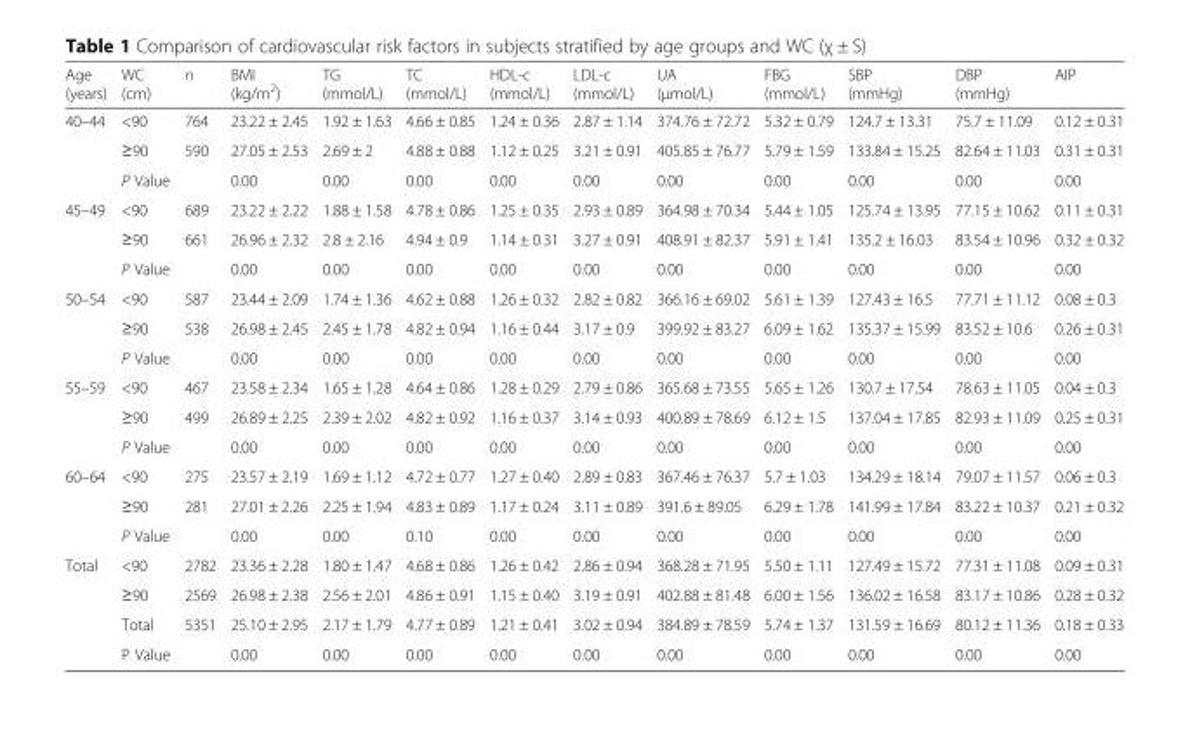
<table><thead><tr><td>Age (years)</td><td>WC (cm)</td><td>n</td><td>BMI (kg/m<sup>2</sup>)</td><td>TG (mmol/L)</td><td>TC (mmol/L)</td><td>HDL-c (mmol/L)</td><td>LDL-c (mmol/L)</td><td>UA (μmol/L)</td><td>FBG (mmol/L)</td><td>SBP (mmHg)</td><td>DBP (mmHg)</td><td>AIP</td></tr></thead><tbody><tr><td rowspan="3">40–44</td><td>&lt;90</td><td>764</td><td>23.22 ± 2.45</td><td>1.92 ± 1.63</td><td>4.66 ± 0.85</td><td>1.24 ± 0.36</td><td>2.87 ± 1.14</td><td>374.76 ± 72.72</td><td>5.32 ± 0.79</td><td>124.7 ± 13.31</td><td>75.7 ± 11.09</td><td>0.12 ± 0.31</td></tr><tr><td>≥90</td><td>590</td><td>27.05 ± 2.53</td><td>2.69 ± 2</td><td>4.88 ± 0.88</td><td>1.12 ± 0.25</td><td>3.21 ± 0.91</td><td>405.85 ± 76.77</td><td>5.79 ± 1.59</td><td>133.84 ± 15.25</td><td>82.64 ± 11.03</td><td>0.31 ± 0.31</td></tr><tr><td>P Value</td><td></td><td>0.00</td><td>0.00</td><td>0.00</td><td>0.00</td><td>0.00</td><td>0.00</td><td>0.00</td><td>0.00</td><td>0.00</td><td>0.00</td></tr><tr><td rowspan="3">45–49</td><td>&lt;90</td><td>689</td><td>23.22 ± 2.22</td><td>1.88 ± 1.58</td><td>4.78 ± 0.86</td><td>1.25 ± 0.35</td><td>2.93 ± 0.89</td><td>364.98 ± 70.34</td><td>5.44 ± 1.05</td><td>125.74 ± 13.95</td><td>77.15 ± 10.62</td><td>0.11 ± 0.31</td></tr><tr><td>≥90</td><td>661</td><td>26.96 ± 2.32</td><td>2.8 ± 2.16</td><td>4.94 ± 0.9</td><td>1.14 ± 0.31</td><td>3.27 ± 0.91</td><td>408.91 ± 82.37</td><td>5.91 ± 1.41</td><td>135.2 ± 16.03</td><td>83.54 ± 10.96</td><td>0.32 ± 0.32</td></tr><tr><td>P Value</td><td></td><td>0.00</td><td>0.00</td><td>0.00</td><td>0.00</td><td>0.00</td><td>0.00</td><td>0.00</td><td>0.00</td><td>0.00</td><td>0.00</td></tr><tr><td rowspan="3">50–54</td><td>&lt;90</td><td>587</td><td>23.44 ± 2.09</td><td>1.74 ± 1.36</td><td>4.62 ± 0.88</td><td>1.26 ± 0.32</td><td>2.82 ± 0.82</td><td>366.16 ± 69.02</td><td>5.61 ± 1.39</td><td>127.43 ± 16.5</td><td>77.71 ± 11.12</td><td>0.08 ± 0.3</td></tr><tr><td>≥90</td><td>538</td><td>26.98 ± 2.45</td><td>2.45 ± 1.78</td><td>4.82 ± 0.94</td><td>1.16 ± 0.44</td><td>3.17 ± 0.9</td><td>399.92 ± 83.27</td><td>6.09 ± 1.62</td><td>135.37 ± 15.99</td><td>83.52 ± 10.6</td><td>0.26 ± 0.31</td></tr><tr><td>P Value</td><td></td><td>0.00</td><td>0.00</td><td>0.00</td><td>0.00</td><td>0.00</td><td>0.00</td><td>0.00</td><td>0.00</td><td>0.00</td><td>0.00</td></tr><tr><td rowspan="3">55–59</td><td>&lt;90</td><td>467</td><td>23.58 ± 2.34</td><td>1.65 ± 1.28</td><td>4.64 ± 0.86</td><td>1.28 ± 0.29</td><td>2.79 ± 0.86</td><td>365.68 ± 73.55</td><td>5.65 ± 1.26</td><td>130.7 ± 17.54</td><td>78.63 ± 11.05</td><td>0.04 ± 0.3</td></tr><tr><td>≥90</td><td>499</td><td>26.89 ± 2.25</td><td>2.39 ± 2.02</td><td>4.82 ± 0.92</td><td>1.16 ± 0.37</td><td>3.14 ± 0.93</td><td>400.89 ± 78.69</td><td>6.12 ± 1.5</td><td>137.04 ± 17.85</td><td>82.93 ± 11.09</td><td>0.25 ± 0.31</td></tr><tr><td>P Value</td><td></td><td>0.00</td><td>0.00</td><td>0.00</td><td>0.00</td><td>0.00</td><td>0.00</td><td>0.00</td><td>0.00</td><td>0.00</td><td>0.00</td></tr><tr><td rowspan="3">60–64</td><td>&lt;90</td><td>275</td><td>23.57 ± 2.19</td><td>1.69 ± 1.12</td><td>4.72 ± 0.77</td><td>1.27 ± 0.40</td><td>2.89 ± 0.83</td><td>367.46 ± 76.37</td><td>5.7 ± 1.03</td><td>134.29 ± 18.14</td><td>79.07 ± 11.57</td><td>0.06 ± 0.3</td></tr><tr><td>≥90</td><td>281</td><td>27.01 ± 2.26</td><td>2.25 ± 1.94</td><td>4.83 ± 0.89</td><td>1.17 ± 0.24</td><td>3.11 ± 0.89</td><td>391.6 ± 89.05</td><td>6.29 ± 1.78</td><td>141.99 ± 17.84</td><td>83.22 ± 10.37</td><td>0.21 ± 0.32</td></tr><tr><td>P Value</td><td></td><td>0.00</td><td>0.00</td><td>0.10</td><td>0.00</td><td>0.00</td><td>0.00</td><td>0.00</td><td>0.00</td><td>0.00</td><td>0.00</td></tr><tr><td rowspan="4">Total</td><td>&lt;90</td><td>2782</td><td>23.36 ± 2.28</td><td>1.80 ± 1.47</td><td>4.68 ± 0.86</td><td>1.26 ± 0.42</td><td>2.86 ± 0.94</td><td>368.28 ± 71.95</td><td>5.50 ± 1.11</td><td>127.49 ± 15.72</td><td>77.31 ± 11.08</td><td>0.09 ± 0.31</td></tr><tr><td>≥90</td><td>2569</td><td>26.98 ± 2.38</td><td>2.56 ± 2.01</td><td>4.86 ± 0.91</td><td>1.15 ± 0.40</td><td>3.19 ± 0.91</td><td>402.88 ± 81.48</td><td>6.00 ± 1.56</td><td>136.02 ± 16.58</td><td>83.17 ± 10.86</td><td>0.28 ± 0.32</td></tr><tr><td>Total</td><td>5351</td><td>25.10 ± 2.95</td><td>2.17 ± 1.79</td><td>4.77 ± 0.89</td><td>1.21 ± 0.41</td><td>3.02 ± 0.94</td><td>384.89 ± 78.59</td><td>5.74 ± 1.37</td><td>131.59 ± 16.69</td><td>80.12 ± 11.36</td><td>0.18 ± 0.33</td></tr><tr><td>P Value</td><td></td><td>0.00</td><td>0.00</td><td>0.00</td><td>0.00</td><td>0.00</td><td>0.00</td><td>0.00</td><td>0.00</td><td>0.00</td><td>0.00</td></tr></tbody></table>